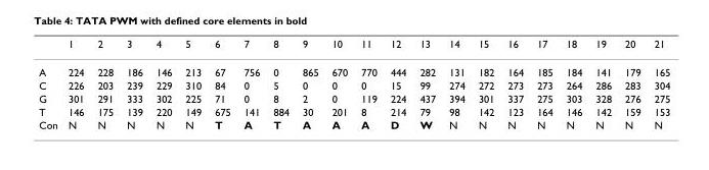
<table><thead><tr><td></td><td>1</td><td>2</td><td>3</td><td>4</td><td>5</td><td>6</td><td>7</td><td>8</td><td>9</td><td>10</td><td>11</td><td>12</td><td>13</td><td>14</td><td>15</td><td>16</td><td>17</td><td>18</td><td>19</td><td>20</td><td>21</td></tr></thead><tbody><tr><td>A</td><td>224</td><td>228</td><td>186</td><td>146</td><td>213</td><td>67</td><td>756</td><td>0</td><td>865</td><td>670</td><td>770</td><td>444</td><td>282</td><td>131</td><td>182</td><td>164</td><td>185</td><td>184</td><td>141</td><td>179</td><td>165</td></tr><tr><td>C</td><td>226</td><td>203</td><td>239</td><td>229</td><td>310</td><td>84</td><td>0</td><td>5</td><td>0</td><td>0</td><td>0</td><td>15</td><td>99</td><td>274</td><td>272</td><td>273</td><td>273</td><td>264</td><td>286</td><td>283</td><td>304</td></tr><tr><td>G</td><td>301</td><td>291</td><td>333</td><td>302</td><td>225</td><td>71</td><td>0</td><td>8</td><td>2</td><td>0</td><td>119</td><td>224</td><td>437</td><td>394</td><td>301</td><td>337</td><td>275</td><td>303</td><td>328</td><td>276</td><td>275</td></tr><tr><td>T</td><td>146</td><td>175</td><td>139</td><td>220</td><td>149</td><td>675</td><td>141</td><td>884</td><td>30</td><td>201</td><td>8</td><td>214</td><td>79</td><td>98</td><td>142</td><td>123</td><td>164</td><td>146</td><td>142</td><td>159</td><td>153</td></tr><tr><td>Con</td><td>N</td><td>N</td><td>N</td><td>N</td><td>N</td><td>T</td><td>A</td><td>T</td><td>A</td><td>A</td><td>A</td><td>D</td><td>W</td><td>N</td><td>N</td><td>N</td><td>N</td><td>N</td><td>N</td><td>N</td><td>N</td></tr></tbody></table>